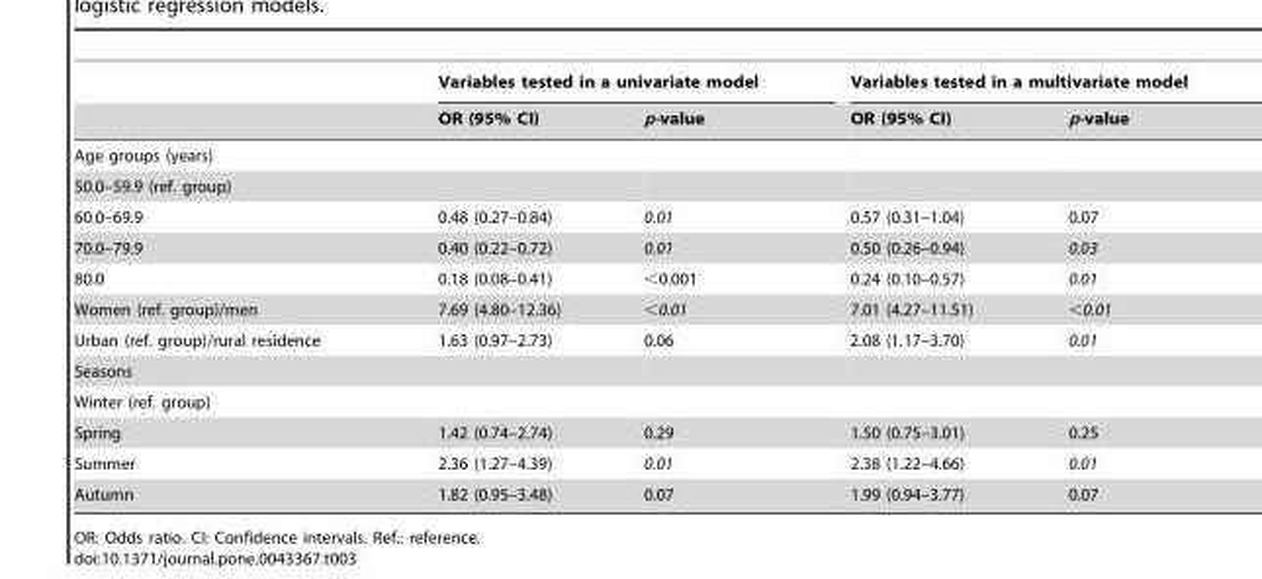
<table><thead><tr><td rowspan="2"></td><td colspan="2">Variables tested in a univariate model</td><td colspan="2">Variables tested in a multivariate model</td></tr><tr><td>OR (95% CI)</td><td>p-value</td><td>OR (95% CI)</td><td>p-value</td></tr></thead><tbody><tr><td colspan="5">Age groups (years)</td></tr><tr><td colspan="5">50.0–59.9 (ref. group)</td></tr><tr><td>60.0–69.9</td><td>0.48 (0.27–0.84)</td><td>0.01</td><td>0.57 (0.31–1.04)</td><td>0.07</td></tr><tr><td>70.0–79.9</td><td>0.40 (0.22–0.72)</td><td>0.01</td><td>0.50 (0.26–0.94)</td><td>0.03</td></tr><tr><td>80.0</td><td>0.18 (0.08–0.41)</td><td>&lt;0.001</td><td>0.24 (0.10–0.57)</td><td>0.01</td></tr><tr><td>Women (ref. group)/men</td><td>7.69 (4.80–12.36)</td><td>&lt;0.01</td><td>7.01 (4.27–11.51)</td><td>&lt;0.01</td></tr><tr><td>Urban (ref. group)/rural residence</td><td>1.63 (0.97–2.73)</td><td>0.06</td><td>2.08 (1.17–3.70)</td><td>0.01</td></tr><tr><td colspan="5">Seasons</td></tr><tr><td colspan="5">Winter (ref. group)</td></tr><tr><td>Spring</td><td>1.42 (0.74–2.74)</td><td>0.29</td><td>1.50 (0.75–3.01)</td><td>0.25</td></tr><tr><td>Summer</td><td>2.36 (1.27–4.39)</td><td>0.01</td><td>2.38 (1.22–4.66)</td><td>0.01</td></tr><tr><td>Autumn</td><td>1.82 (0.95–3.48)</td><td>0.07</td><td>1.99 (0.94–3.77)</td><td>0.07</td></tr></tbody></table>